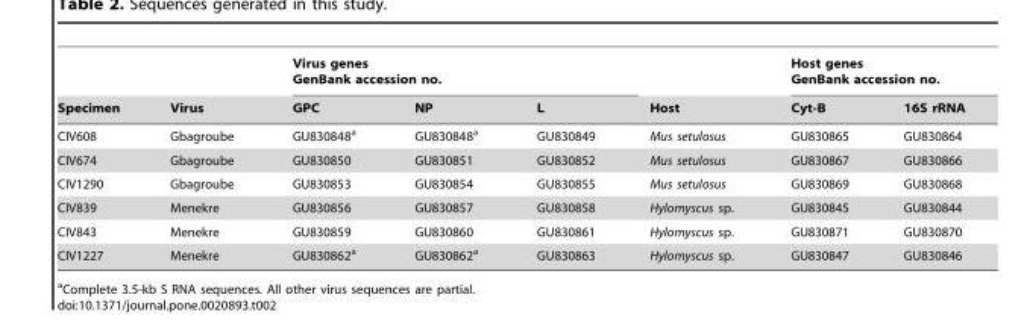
<table><thead><tr><td rowspan="2">Specimen</td><td rowspan="2">Virus</td><td colspan="3">Virus genes GenBank accession no.</td><td rowspan="2">Host</td><td colspan="2">Host genes GenBank accession no.</td></tr><tr><td>GPC</td><td>NP</td><td>L</td><td>Cyt-B</td><td>16S rRNA</td></tr></thead><tbody><tr><td>CIV608</td><td>Gbagroube</td><td>GU830848<sup>a</sup></td><td>GU830848<sup>a</sup></td><td>GU830849</td><td>Mus setulosus</td><td>GU830865</td><td>GU830864</td></tr><tr><td>CIV674</td><td>Gbagroube</td><td>GU830850</td><td>GU830851</td><td>GU830852</td><td>Mus setulosus</td><td>GU830867</td><td>GU830866</td></tr><tr><td>CIV1290</td><td>Gbagroube</td><td>GU830853</td><td>GU830854</td><td>GU830855</td><td>Mus setulosus</td><td>GU830869</td><td>GU830868</td></tr><tr><td>CIV839</td><td>Menekre</td><td>GU830856</td><td>GU830857</td><td>GU830858</td><td>Hylomyscus sp.</td><td>GU830845</td><td>GU830844</td></tr><tr><td>CIV843</td><td>Menekre</td><td>GU830859</td><td>GU830860</td><td>GU830861</td><td>Hylomyscus sp.</td><td>GU830871</td><td>GU830870</td></tr><tr><td>CIV1227</td><td>Menekre</td><td>GU830862<sup>a</sup></td><td>GU830862<sup>a</sup></td><td>GU830863</td><td>Hylomyscus sp.</td><td>GU830847</td><td>GU830846</td></tr></tbody></table>